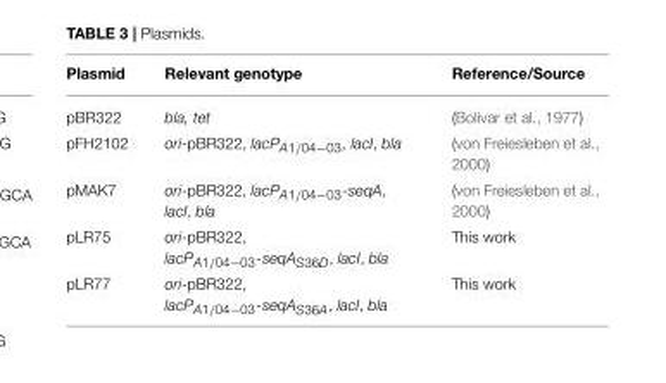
<table><thead><tr><td>Plasmid</td><td>Relevant genotype</td><td>Reference/Source</td></tr></thead><tbody><tr><td>pBR322</td><td>bla, tet</td><td>(Bolivar et al., 1977)</td></tr><tr><td>pFH2102</td><td>ori-pBR322, lacPA1/04−03, lacI, bla</td><td>(von Freiesleben et al., 2000)</td></tr><tr><td>pMAK7</td><td>ori-pBR322, lacPA1/04−03-seqA, lacI, bla</td><td>(von Freiesleben et al., 2000)</td></tr><tr><td>pLR75</td><td>ori-pBR322, lacPA1/04−03-seqAS36D, lacI, bla</td><td>This work</td></tr><tr><td>pLR77</td><td>ori-pBR322, lacPA1/04−03-seqAS36A, lacI, bla</td><td>This work</td></tr></tbody></table>